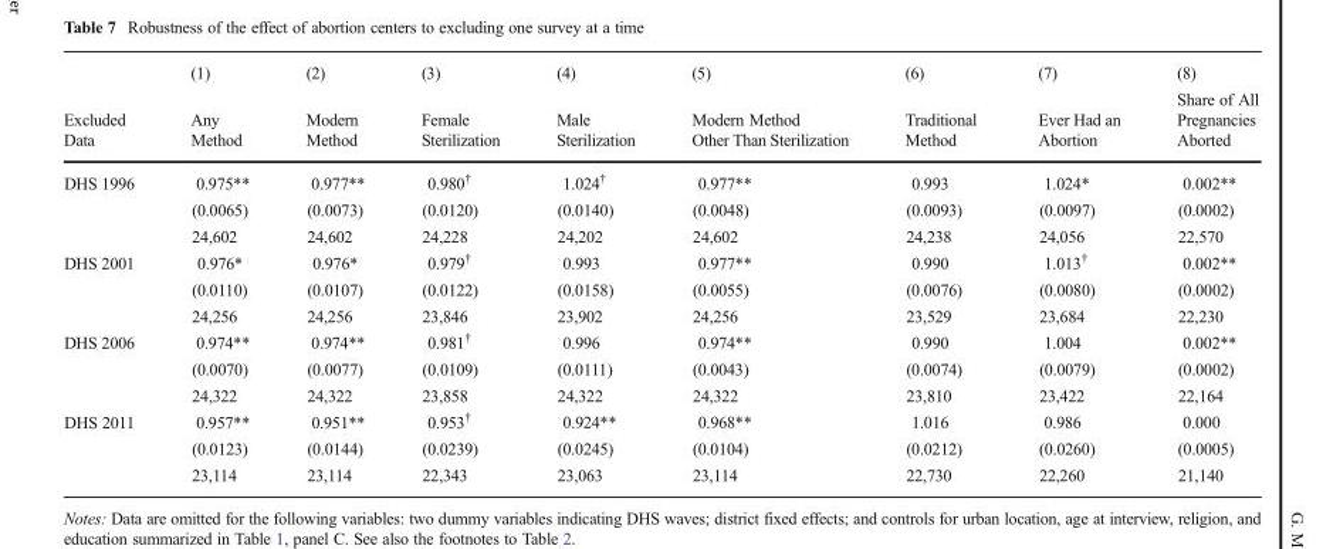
<table><thead><tr><td rowspan="2">Excluded Data</td><td rowspan="2">(1) Any Method</td><td rowspan="2">(2) Modern Method</td><td rowspan="2">(3) Female Sterilization</td><td rowspan="2">(4) Male Sterilization</td><td rowspan="2">(5) Modern Method Other Than Sterilization</td><td rowspan="2">(6) Traditional Method</td><td rowspan="2">(7) Ever Had an Abortion</td><td rowspan="2">(8) Share of All Pregnancies Aborted</td></tr><tr></tr></thead><tbody><tr><td rowspan="3">DHS 1996</td><td>0.975**</td><td>0.977**</td><td>0.980<sup>†</sup></td><td>1.024<sup>†</sup></td><td>0.977**</td><td>0.993</td><td>1.024*</td><td>0.002**</td></tr><tr><td>(0.0065)</td><td>(0.0073)</td><td>(0.0120)</td><td>(0.0140)</td><td>(0.0048)</td><td>(0.0093)</td><td>(0.0097)</td><td>(0.0002)</td></tr><tr><td>24,602</td><td>24,602</td><td>24,228</td><td>24,202</td><td>24,602</td><td>24,238</td><td>24,056</td><td>22,570</td></tr><tr><td rowspan="3">DHS 2001</td><td>0.976*</td><td>0.976*</td><td>0.979<sup>†</sup></td><td>0.993</td><td>0.977**</td><td>0.990</td><td>1.013<sup>†</sup></td><td>0.002**</td></tr><tr><td>(0.0110)</td><td>(0.0107)</td><td>(0.0122)</td><td>(0.0158)</td><td>(0.0055)</td><td>(0.0076)</td><td>(0.0080)</td><td>(0.0002)</td></tr><tr><td>24,256</td><td>24,256</td><td>23,846</td><td>23,902</td><td>24,256</td><td>23,529</td><td>23,684</td><td>22,230</td></tr><tr><td rowspan="3">DHS 2006</td><td>0.974**</td><td>0.974**</td><td>0.981<sup>†</sup></td><td>0.996</td><td>0.974**</td><td>0.990</td><td>1.004</td><td>0.002**</td></tr><tr><td>(0.0070)</td><td>(0.0077)</td><td>(0.0109)</td><td>(0.0111)</td><td>(0.0043)</td><td>(0.0074)</td><td>(0.0079)</td><td>(0.0002)</td></tr><tr><td>24,322</td><td>24,322</td><td>23,858</td><td>24,322</td><td>24,322</td><td>23,810</td><td>23,422</td><td>22,164</td></tr><tr><td rowspan="3">DHS 2011</td><td>0.957**</td><td>0.951**</td><td>0.953<sup>†</sup></td><td>0.924**</td><td>0.968**</td><td>1.016</td><td>0.986</td><td>0.000</td></tr><tr><td>(0.0123)</td><td>(0.0144)</td><td>(0.0239)</td><td>(0.0245)</td><td>(0.0104)</td><td>(0.0212)</td><td>(0.0260)</td><td>(0.0005)</td></tr><tr><td>23,114</td><td>23,114</td><td>22,343</td><td>23,063</td><td>23,114</td><td>22,730</td><td>22,260</td><td>21,140</td></tr></tbody></table>